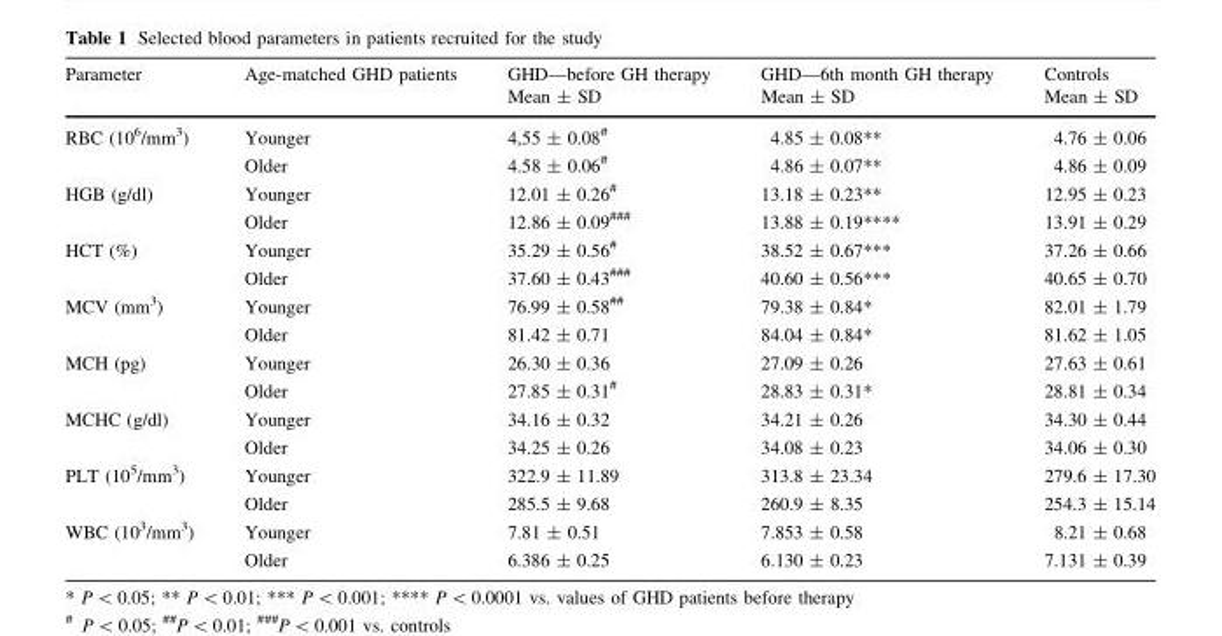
<table><thead><tr><td>Parameter</td><td>Age-matched GHD patients</td><td>GHD—before GH therapy Mean ± SD</td><td>GHD—6th month GH therapy Mean ± SD</td><td>Controls Mean ± SD</td></tr></thead><tbody><tr><td rowspan="2">RBC (10<sup>6</sup>/mm<sup>3</sup>)</td><td>Younger</td><td>4,55 ± 0.08<sup>#</sup></td><td>4.85 ± 0.08**</td><td>4.76 ± 0.06</td></tr><tr><td>Older</td><td>4.58 ± 0.06<sup>#</sup></td><td>4.86 ± 0.07**</td><td>4.86 ± 0.09</td></tr><tr><td rowspan="2">HGB (g/dl)</td><td>Younger</td><td>12.01 ± 0.26<sup>#</sup></td><td>13.18 ± 0.23**</td><td>12.95 ± 0.23</td></tr><tr><td>Older</td><td>12.86 ± 0.09<sup>###</sup></td><td>13.88 ± 0.19****</td><td>13.91 ± 0.29</td></tr><tr><td rowspan="2">HCT (%)</td><td>Younger</td><td>35.29 ± 0.56<sup>#</sup></td><td>38.52 ± 0.67***</td><td>37.26 ± 0.66</td></tr><tr><td>Older</td><td>37.60 ± 0.43<sup>###</sup></td><td>40.60 ± 0.56***</td><td>40.65 ± 0.70</td></tr><tr><td rowspan="2">MCV (mm<sup>3</sup>)</td><td>Younger</td><td>76.99 ± 0.58<sup>##</sup></td><td>79.38 ± 0.84*</td><td>82.01 ± 1.79</td></tr><tr><td>Older</td><td>81.42 ± 0.71</td><td>84.04 ± 0.84*</td><td>81.62 ± 1.05</td></tr><tr><td rowspan="2">MCH (pg)</td><td>Younger</td><td>26.30 ± 0.36</td><td>27.09 ± 0.26</td><td>27.63 ± 0.61</td></tr><tr><td>Older</td><td>27.85 ± 0.31<sup>#</sup></td><td>28.83 ± 0.31*</td><td>28.81 ± 0.34</td></tr><tr><td rowspan="2">MCHC (g/dl)</td><td>Younger</td><td>34.16 ± 0.32</td><td>34.21 ± 0.26</td><td>34.30 ± 0.44</td></tr><tr><td>Older</td><td>34.25 ± 0.26</td><td>34.08 ± 0.23</td><td>34.06 ± 0.30</td></tr><tr><td rowspan="2">PLT (10<sup>5</sup>/mm<sup>3</sup>)</td><td>Younger</td><td>322.9 ± 11.89</td><td>313.8 ± 23.34</td><td>279.6 ± 17.30</td></tr><tr><td>Older</td><td>285.5 ± 9.68</td><td>260.9 ± 8.35</td><td>254.3 ± 15.14</td></tr><tr><td rowspan="2">WBC (10<sup>3</sup>/mm<sup>3</sup>)</td><td>Younger</td><td>7.81 ± 0.51</td><td>7.853 ± 0.58</td><td>8.21 ± 0.68</td></tr><tr><td>Older</td><td>6.386 ± 0.25</td><td>6.130 ± 0.23</td><td>7.131 ± 0.39</td></tr></tbody></table>